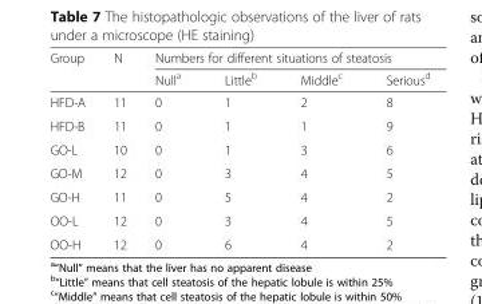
<table><thead><tr><td rowspan="2">Group</td><td rowspan="2">N</td><td colspan="4">Numbers for different situations of steatosis</td></tr><tr><td>Null<sup>a</sup></td><td>Little<sup>b</sup></td><td>Middle<sup>c</sup></td><td>Serious<sup>d</sup></td></tr></thead><tbody><tr><td>HFD-A</td><td>11</td><td>0</td><td>1</td><td>2</td><td>8</td></tr><tr><td>HFD-B</td><td>11</td><td>0</td><td>1</td><td>1</td><td>9</td></tr><tr><td>GO-L</td><td>10</td><td>0</td><td>1</td><td>3</td><td>6</td></tr><tr><td>GO-M</td><td>12</td><td>0</td><td>3</td><td>4</td><td>5</td></tr><tr><td>GO-H</td><td>11</td><td>0</td><td>5</td><td>4</td><td>2</td></tr><tr><td>OO-L</td><td>12</td><td>0</td><td>3</td><td>4</td><td>5</td></tr><tr><td>OO-H</td><td>12</td><td>0</td><td>6</td><td>4</td><td>2</td></tr></tbody></table>